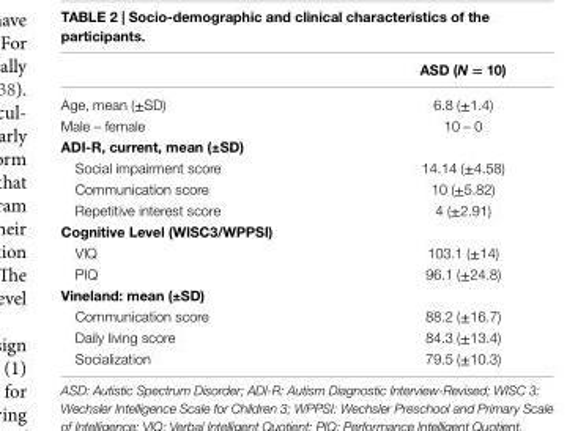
<table><thead><tr><td></td><td>Asd (N = 10)</td></tr></thead><tbody><tr><td>Age, mean (±SD)</td><td>6.8 (±1.4)</td></tr><tr><td>Male – female</td><td>10 – 0</td></tr><tr><td colspan="2">AdI-R, current, mean (±sd)</td></tr><tr><td>Social impairment score</td><td>14.14 (±4.58)</td></tr><tr><td>Communication score</td><td>10 (±5.82)</td></tr><tr><td>Repetitive interest score</td><td>4 (±2.91)</td></tr><tr><td colspan="2">Cognitive Level (WIsC3/WPPsI)</td></tr><tr><td>VIQ</td><td>103.1 (±14)</td></tr><tr><td>PIQ</td><td>96.1 (±24.8)</td></tr><tr><td colspan="2">Vineland: mean (±sd)</td></tr><tr><td>Communication score</td><td>88.2 (±16.7)</td></tr><tr><td>Daily living score</td><td>84.3 (±13.4)</td></tr><tr><td>Socialization</td><td>79.5 (±10.3)</td></tr></tbody></table>